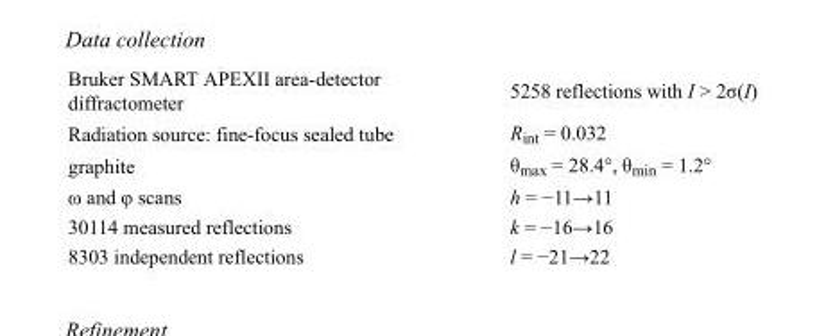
<table><tbody><tr><td>Bruker SMART APEXII area-detector diffractometer</td><td>5258 reflections with I &gt; 2σ(I)</td></tr><tr><td>Radiation source: fine-focus sealed tube</td><td>R<sub>int</sub> = 0.032</td></tr><tr><td>graphite</td><td>θ<sub>max</sub> = 28.4°, θ<sub>min</sub> = 1.2°</td></tr><tr><td>ω and φ scans</td><td>h = −11→11</td></tr><tr><td>30114 measured reflections</td><td>k = −16→16</td></tr><tr><td>8303 independent reflections</td><td>l = −21→22</td></tr></tbody></table>